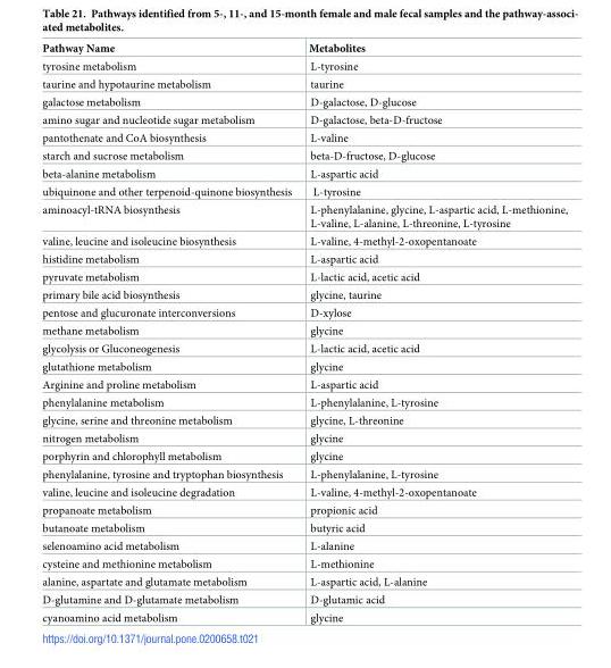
<table><thead><tr><td>Pathway Name</td><td>Metabolites</td></tr></thead><tbody><tr><td>tyrosine metabolism</td><td>L-tyrosine</td></tr><tr><td>taurine and hypotaurine metabolism</td><td>taurine</td></tr><tr><td>galactose metabolism</td><td>D-galactose, D-glucose</td></tr><tr><td>amino sugar and nucleotide sugar metabolism</td><td>D-galactose, beta-D-fructose</td></tr><tr><td>pantothenate and CoA biosynthesis</td><td>L-valine</td></tr><tr><td>starch and sucrose metabolism</td><td>beta-D-fructose, D-glucose</td></tr><tr><td>beta-alanine metabolism</td><td>L-aspartic acid</td></tr><tr><td>ubiquinone and other terpenoid-quinone biosynthesis</td><td>L-tyrosine</td></tr><tr><td>aminoacyl-tRNA biosynthesis</td><td>L-phenylalanine, glycine, L-aspartic acid, L-methionine, L-valine, L-alanine, L-threonine, L-tyrosine</td></tr><tr><td>valine, leucine and isoleucine biosynthesis</td><td>L-valine, 4-methyl-2-oxopentanoate</td></tr><tr><td>histidine metabolism</td><td>L-aspartic acid</td></tr><tr><td>pyruvate metabolism</td><td>L-lactic acid, acetic acid</td></tr><tr><td>primary bile acid biosynthesis</td><td>glycine, taurine</td></tr><tr><td>pentose and glucuronate interconversions</td><td>D-xylose</td></tr><tr><td>methane metabolism</td><td>glycine</td></tr><tr><td>glycolysis or Gluconeogenesis</td><td>L-lactic acid, acetic acid</td></tr><tr><td>glutathione metabolism</td><td>glycine</td></tr><tr><td>Arginine and proline metabolism</td><td>L-aspartic acid</td></tr><tr><td>phenylalanine metabolism</td><td>L-phenylalanine, L-tyrosine</td></tr><tr><td>glycine, serine and threonine metabolism</td><td>glycine, L-threonine</td></tr><tr><td>nitrogen metabolism</td><td>glycine</td></tr><tr><td>porphyrin and chlorophyll metabolism</td><td>glycine</td></tr><tr><td>phenylalanine, tyrosine and tryptophan biosynthesis</td><td>L-phenylalanine, L-tyrosine</td></tr><tr><td>valine, leucine and isoleucine degradation</td><td>L-valine, 4-methyl-2-oxopentanoate</td></tr><tr><td>propanoate metabolism</td><td>propionic acid</td></tr><tr><td>butanoate metabolism</td><td>butyric acid</td></tr><tr><td>selenoamino acid metabolism</td><td>L-alanine</td></tr><tr><td>cysteine and methionine metabolism</td><td>L-methionine</td></tr><tr><td>alanine, aspartate and glutamate metabolism</td><td>L-aspartic acid, L-alanine</td></tr><tr><td>D-glutamine and D-glutamate metabolism</td><td>D-glutamic acid</td></tr><tr><td>cyanoamino acid metabolism</td><td>glycine</td></tr></tbody></table>